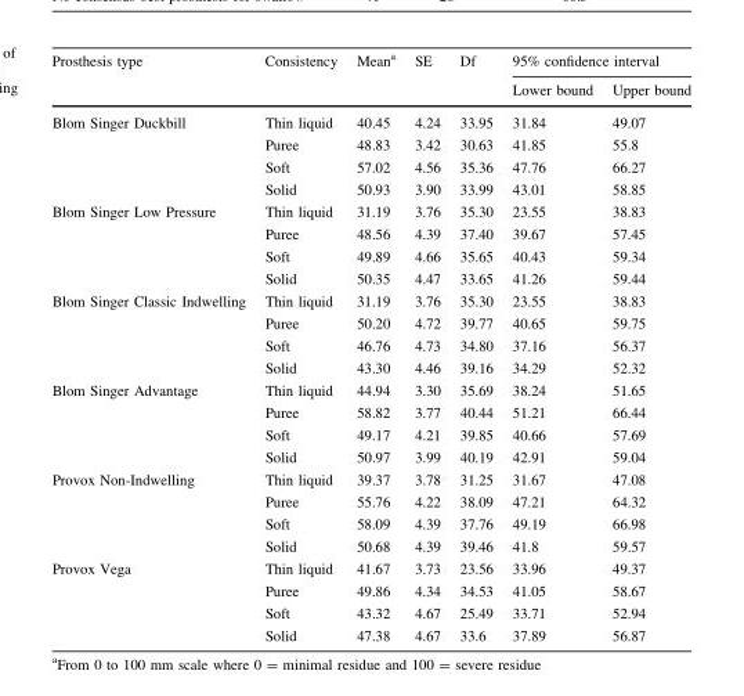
<table><thead><tr><td rowspan="2">Prosthesis type</td><td rowspan="2">Consistency</td><td rowspan="2">Mean<sup>a</sup></td><td rowspan="2">SE</td><td rowspan="2">Df</td><td colspan="2">95% confidence interval</td></tr><tr><td>Lower bound</td><td>Upper bound</td></tr></thead><tbody><tr><td rowspan="4">Blom Singer Duckbill</td><td>Thin liquid</td><td>40.45</td><td>4.24</td><td>33.95</td><td>31.84</td><td>49.07</td></tr><tr><td>Puree</td><td>48.83</td><td>3.42</td><td>30.63</td><td>41.85</td><td>55.8</td></tr><tr><td>Soft</td><td>57.02</td><td>4.56</td><td>35.36</td><td>47.76</td><td>66.27</td></tr><tr><td>Solid</td><td>50.93</td><td>3.90</td><td>33.99</td><td>43.01</td><td>58.85</td></tr><tr><td rowspan="4">Blom Singer Low Pressure</td><td>Thin liquid</td><td>31.19</td><td>3.76</td><td>35.30</td><td>23.55</td><td>38.83</td></tr><tr><td>Puree</td><td>48.56</td><td>4.39</td><td>37.40</td><td>39.67</td><td>57.45</td></tr><tr><td>Soft</td><td>49.89</td><td>4.66</td><td>35.65</td><td>40.43</td><td>59.34</td></tr><tr><td>Solid</td><td>50.35</td><td>4.47</td><td>33.65</td><td>41.26</td><td>59.44</td></tr><tr><td rowspan="4">Blom Singer Classic Indwelling</td><td>Thin liquid</td><td>31.19</td><td>3.76</td><td>35.30</td><td>23.55</td><td>38.83</td></tr><tr><td>Puree</td><td>50.20</td><td>4.72</td><td>39.77</td><td>40.65</td><td>59.75</td></tr><tr><td>Soft</td><td>46.76</td><td>4.73</td><td>34.80</td><td>37.16</td><td>56.37</td></tr><tr><td>Solid</td><td>43.30</td><td>4.46</td><td>39.16</td><td>34.29</td><td>52.32</td></tr><tr><td rowspan="4">Blom Singer Advantage</td><td>Thin liquid</td><td>44.94</td><td>3.30</td><td>35.69</td><td>38.24</td><td>51.65</td></tr><tr><td>Puree</td><td>58.82</td><td>3.77</td><td>40.44</td><td>51.21</td><td>66.44</td></tr><tr><td>Soft</td><td>49.17</td><td>4.21</td><td>39.85</td><td>40.66</td><td>57.69</td></tr><tr><td>Solid</td><td>50.97</td><td>3.99</td><td>40.19</td><td>42.91</td><td>59.04</td></tr><tr><td rowspan="4">Provox Non-Indwelling</td><td>Thin liquid</td><td>39.37</td><td>3.78</td><td>31.25</td><td>31.67</td><td>47.08</td></tr><tr><td>Puree</td><td>55.76</td><td>4.22</td><td>38.09</td><td>47.21</td><td>64.32</td></tr><tr><td>Soft</td><td>58.09</td><td>4.39</td><td>37.76</td><td>49.19</td><td>66.98</td></tr><tr><td>Solid</td><td>50.68</td><td>4.39</td><td>39.46</td><td>41.8</td><td>59.57</td></tr><tr><td rowspan="4">Provox Vega</td><td>Thin liquid</td><td>41.67</td><td>3.73</td><td>23.56</td><td>33.96</td><td>49.37</td></tr><tr><td>Puree</td><td>49.86</td><td>4.34</td><td>34.53</td><td>41.05</td><td>58.67</td></tr><tr><td>Soft</td><td>43.32</td><td>4.67</td><td>25.49</td><td>33.71</td><td>52.94</td></tr><tr><td>Solid</td><td>47.38</td><td>4.67</td><td>33.6</td><td>37.89</td><td>56.87</td></tr></tbody></table>